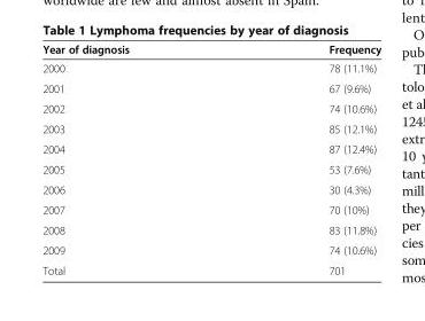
<table><thead><tr><td>Year of diagnosis</td><td>Frequency</td></tr></thead><tbody><tr><td>2000</td><td>78 (11.1%)</td></tr><tr><td>2001</td><td>67 (9.6%)</td></tr><tr><td>2002</td><td>74 (10.6%)</td></tr><tr><td>2003</td><td>85 (12.1%)</td></tr><tr><td>2004</td><td>87 (12.4%)</td></tr><tr><td>2005</td><td>53 (7.6%)</td></tr><tr><td>2006</td><td>30 (4.3%)</td></tr><tr><td>2007</td><td>70 (10%)</td></tr><tr><td>2008</td><td>83 (11.8%)</td></tr><tr><td>2009</td><td>74 (10.6%)</td></tr><tr><td>Total</td><td>701</td></tr></tbody></table>